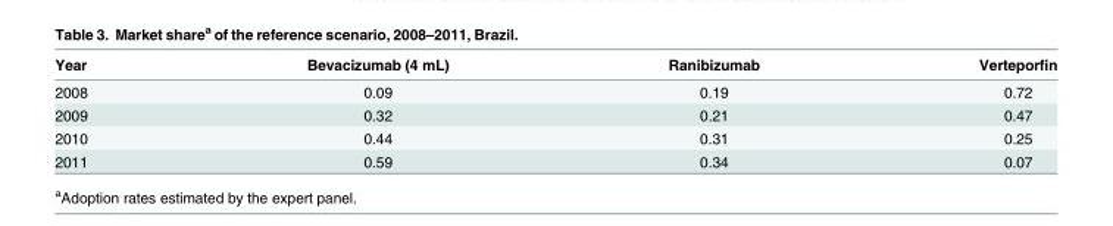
<table><thead><tr><td>Year</td><td>Bevacizumab (4 mL)</td><td>Ranibizumab</td><td>Verteporfin</td></tr></thead><tbody><tr><td>2008</td><td>0.09</td><td>0.19</td><td>0.72</td></tr><tr><td>2009</td><td>0.32</td><td>0.21</td><td>0.47</td></tr><tr><td>2010</td><td>0.44</td><td>0.31</td><td>0.25</td></tr><tr><td>2011</td><td>0.59</td><td>0.34</td><td>0.07</td></tr></tbody></table>